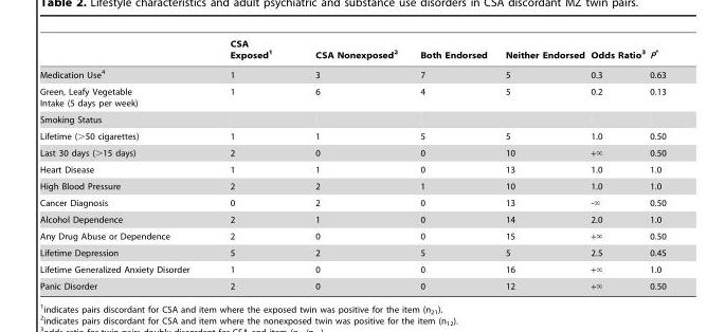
<table><thead><tr><td></td><td>CSA Exposed<sup>1</sup></td><td>CSA Nonexposed<sup>2</sup></td><td>Both Endorsed</td><td>Neither Endorsed</td><td>Odds Ratio<sup>3</sup></td><td>P*</td></tr></thead><tbody><tr><td>Medication Use<sup>4</sup></td><td>1</td><td>3</td><td>7</td><td>5</td><td>0.3</td><td>0.63</td></tr><tr><td>Green, Leafy Vegetable Intake (5 days per week)</td><td>1</td><td>6</td><td>4</td><td>5</td><td>0.2</td><td>0.13</td></tr><tr><td colspan="7">Smoking Status</td></tr><tr><td>Lifetime (&gt;50 cigarettes)</td><td>1</td><td>1</td><td>5</td><td>5</td><td>1.0</td><td>0.50</td></tr><tr><td>Last 30 days (&gt;15 days)</td><td>2</td><td>0</td><td>0</td><td>10</td><td>+‘</td><td>0.50</td></tr><tr><td>Heart Disease</td><td>1</td><td>1</td><td>0</td><td>13</td><td>1.0</td><td>1.0</td></tr><tr><td>High Blood Pressure</td><td>2</td><td>2</td><td>1</td><td>10</td><td>1.0</td><td>1.0</td></tr><tr><td>Cancer Diagnosis</td><td>0</td><td>2</td><td>0</td><td>13</td><td>-‘</td><td>0.50</td></tr><tr><td>Alcohol Dependence</td><td>2</td><td>1</td><td>0</td><td>14</td><td>2.0</td><td>1.0</td></tr><tr><td>Any Drug Abuse or Dependence</td><td>2</td><td>0</td><td>0</td><td>15</td><td>+‘</td><td>0.50</td></tr><tr><td>Lifetime Depression</td><td>5</td><td>2</td><td>5</td><td>5</td><td>2.5</td><td>0.45</td></tr><tr><td>Lifetime Generalized Anxiety Disorder</td><td>1</td><td>0</td><td>0</td><td>16</td><td>+‘</td><td>1.0</td></tr><tr><td>Panic Disorder</td><td>2</td><td>0</td><td>0</td><td>12</td><td>+‘</td><td>0.50</td></tr></tbody></table>